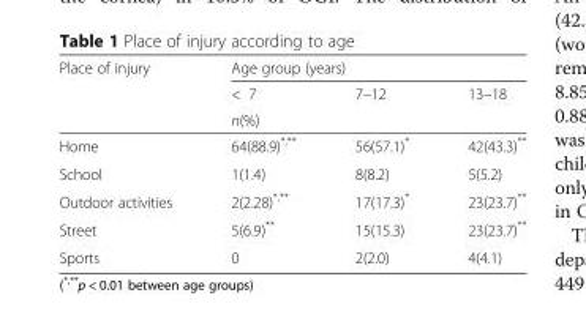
<table><thead><tr><td rowspan="3">Place of injury</td><td colspan="3">Age group (years)</td></tr><tr><td>&lt; 7</td><td>7–12</td><td>13–18</td></tr><tr><td colspan="3">n(%)</td></tr></thead><tbody><tr><td>Home</td><td>64(88.9)<sup>*,**</sup></td><td>56(57.1)*</td><td>42(43.3)**</td></tr><tr><td>School</td><td>1(1.4)</td><td>8(8.2)</td><td>5(5.2)</td></tr><tr><td>Outdoor activities</td><td>2(2.28)<sup>*,**</sup></td><td>17(17.3)*</td><td>23(23.7)**</td></tr><tr><td>Street</td><td>5(6.9)**</td><td>15(15.3)</td><td>23(23.7)**</td></tr><tr><td>Sports</td><td>0</td><td>2(2.0)</td><td>4(4.1)</td></tr></tbody></table>